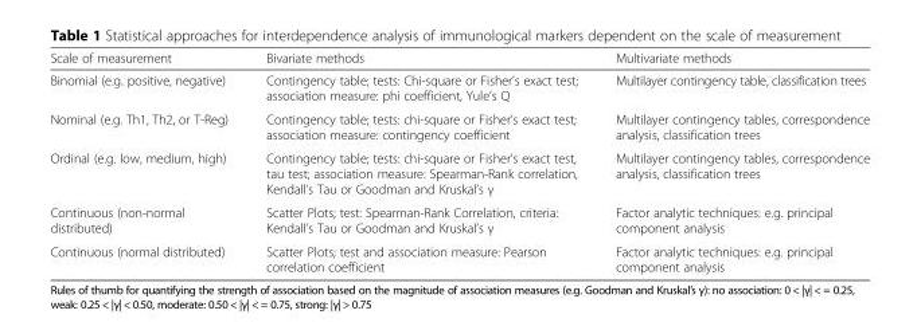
<table><thead><tr><td>Scale of measurement</td><td>Bivariate methods</td><td>Multivariate methods</td></tr></thead><tbody><tr><td>Binomial (e.g. positive, negative)</td><td>Contingency table; tests: Chi-square or Fisher’s exact test; association measure: phi coefficient, Yule’s Q</td><td>Multilayer contingency table, classification trees</td></tr><tr><td>Nominal (e.g. Th1, Th2, or T-Reg)</td><td>Contingency table; tests: chi-square or Fisher’s exact test; association measure: contingency coefficient</td><td>Multilayer contingency tables, correspondence analysis, classification trees</td></tr><tr><td>Ordinal (e.g. low, medium, high)</td><td>Contingency table; tests: chi-square or Fisher’s exact test, tau test; association measure: Spearman-Rank correlation, Kendall’s Tau or Goodman and Kruskal’s γ</td><td>Multilayer contingency tables, correspondence analysis, classification trees</td></tr><tr><td>Continuous (non-normal distributed)</td><td>Scatter Plots; test: Spearman-Rank Correlation, criteria: Kendall’s Tau or Goodman and Kruskal’s γ</td><td>Factor analytic techniques: e.g. principal component analysis</td></tr><tr><td>Continuous (normal distributed)</td><td>Scatter Plots; test and association measure: Pearson correlation coefficient</td><td>Factor analytic techniques: e.g. principal component analysis</td></tr></tbody></table>